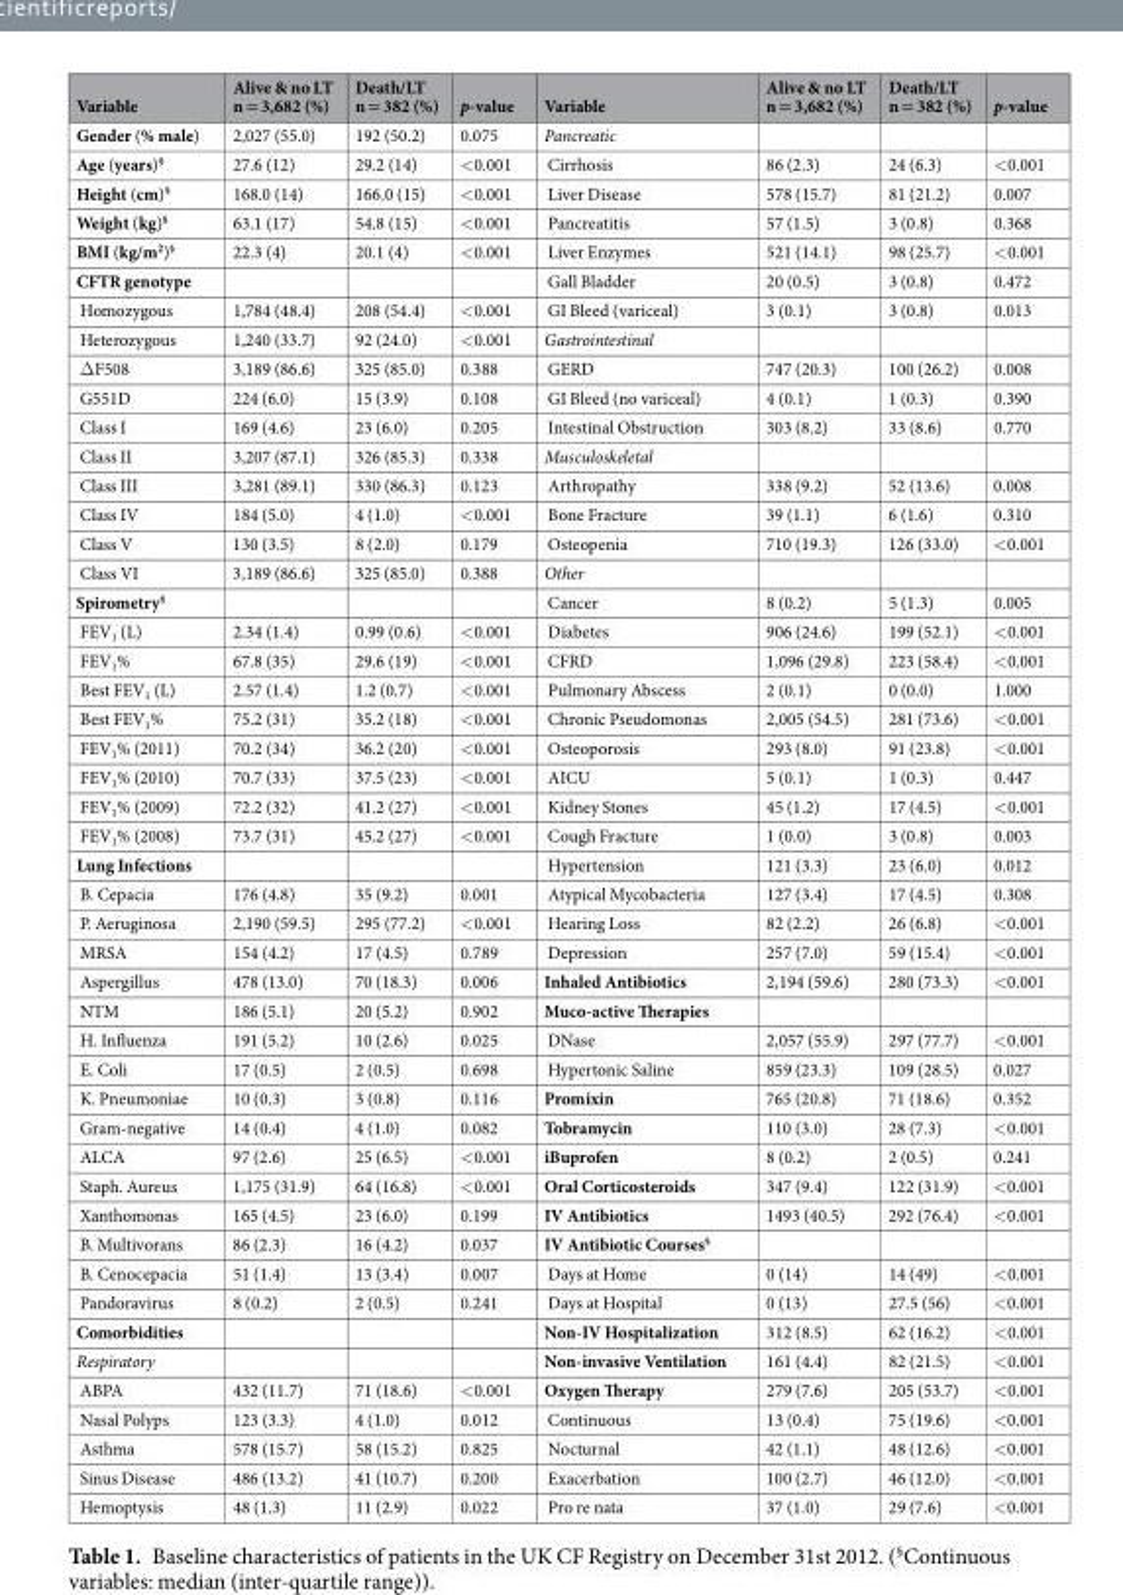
<table><thead><tr><td>Variable</td><td>Alive &amp; no LT n = 3,682 (%)</td><td>Death/LT n = 382 (%)</td><td>p-value</td><td>Variable</td><td>Alive &amp; no LT n = 3,682 (%)</td><td>Death/LT n = 382 (%)</td><td>p-value</td></tr></thead><tbody><tr><td>Gender (% male)</td><td>2,027 (55.0)</td><td>192 (50.2)</td><td>0.075</td><td>Pancreatic</td><td></td><td></td><td></td></tr><tr><td>Age (years)<sup>§</sup></td><td>27.6 (12)</td><td>29.2 (14)</td><td>&lt;0.001</td><td>Cirrhosis</td><td>86 (2.3)</td><td>24 (6.3)</td><td>&lt;0.001</td></tr><tr><td>Height (cm)<sup>§</sup></td><td>168.0 (14)</td><td>166.0 (15)</td><td>&lt;0.001</td><td>Liver Disease</td><td>578 (15.7)</td><td>81 (21.2)</td><td>0.007</td></tr><tr><td>Weight (kg)<sup>§</sup></td><td>63.1 (17)</td><td>54.8 (15)</td><td>&lt;0.001</td><td>Pancreatitis</td><td>57 (1.5)</td><td>3 (0.8)</td><td>0.368</td></tr><tr><td>BMI (kg/m<sup>2</sup>)<sup>§</sup></td><td>22.3 (4)</td><td>20.1 (4)</td><td>&lt;0.001</td><td>Liver Enzymes</td><td>521 (14.1)</td><td>98 (25.7)</td><td>&lt;0.001</td></tr><tr><td>CFTR genotype</td><td></td><td></td><td></td><td>Gall Bladder</td><td>20 (0.5)</td><td>3 (0.8)</td><td>0.472</td></tr><tr><td>Homozygous</td><td>1,784 (48.4)</td><td>208 (54.4)</td><td>&lt;0.001</td><td>GI Bleed (variceal)</td><td>3 (0.1)</td><td>3 (0.8)</td><td>0.013</td></tr><tr><td>Heterozygous</td><td>1,240 (33.7)</td><td>92 (24.0)</td><td>&lt;0.001</td><td>Gastrointestinal</td><td></td><td></td><td></td></tr><tr><td>ΔF508</td><td>3,189 (86.6)</td><td>325 (85.0)</td><td>0.388</td><td>GERD</td><td>747 (20.3)</td><td>100 (26.2)</td><td>0.008</td></tr><tr><td>G551D</td><td>224 (6.0)</td><td>15 (3.9)</td><td>0.108</td><td>GI Bleed (no variceal)</td><td>4 (0.1)</td><td>1 (0.3)</td><td>0.390</td></tr><tr><td>Class I</td><td>169 (4.6)</td><td>23 (6.0)</td><td>0.205</td><td>Intestinal Obstruction</td><td>303 (8.2)</td><td>33 (8.6)</td><td>0.770</td></tr><tr><td>Class II</td><td>3,207 (87.1)</td><td>326 (85.3)</td><td>0.338</td><td>Musculoskeletal</td><td></td><td></td><td></td></tr><tr><td>Class III</td><td>3,281 (89.1)</td><td>330 (86.3)</td><td>0.123</td><td>Arthropathy</td><td>338 (9.2)</td><td>52 (13.6)</td><td>0.008</td></tr><tr><td>Class IV</td><td>184 (5.0)</td><td>4 (1.0)</td><td>&lt;0.001</td><td>Bone Fracture</td><td>39 (1.1)</td><td>6 (1.6)</td><td>0.310</td></tr><tr><td>Class V</td><td>130 (3.5)</td><td>8 (2.0)</td><td>0.179</td><td>Osteopenia</td><td>710 (19.3)</td><td>126 (33.0)</td><td>&lt;0.001</td></tr><tr><td>Class VI</td><td>3,189 (86.6)</td><td>325 (85.0)</td><td>0.388</td><td>Other</td><td></td><td></td><td></td></tr><tr><td>Spirometry<sup>§</sup></td><td></td><td></td><td></td><td>Cancer</td><td>8 (0.2)</td><td>5 (1.3)</td><td>0.005</td></tr><tr><td>FEV<sub>1</sub> (L)</td><td>2.34 (1.4)</td><td>0.99 (0.6)</td><td>&lt;0.001</td><td>Diabetes</td><td>906 (24.6)</td><td>199 (52.1)</td><td>&lt;0.001</td></tr><tr><td>FEV<sub>1</sub>%</td><td>67.8 (35)</td><td>29.6 (19)</td><td>&lt;0.001</td><td>CFRD</td><td>1,096 (29.8)</td><td>223 (58.4)</td><td>&lt;0.001</td></tr><tr><td>Best FEV<sub>1</sub> (L)</td><td>2.57 (1.4)</td><td>1.2 (0.7)</td><td>&lt;0.001</td><td>Pulmonary Abscess</td><td>2 (0.1)</td><td>0 (0.0)</td><td>1.000</td></tr><tr><td>Best FEV<sub>1</sub>%</td><td>75.2 (31)</td><td>35.2 (18)</td><td>&lt;0.001</td><td>Chronic Pseudomonas</td><td>2,005 (54.5)</td><td>281 (73.6)</td><td>&lt;0.001</td></tr><tr><td>FEV<sub>1</sub>% (2011)</td><td>70.2 (34)</td><td>36.2 (20)</td><td>&lt;0.001</td><td>Osteoporosis</td><td>293 (8.0)</td><td>91 (23.8)</td><td>&lt;0.001</td></tr><tr><td>FEV<sub>1</sub>% (2010)</td><td>70.7 (33)</td><td>37.5 (23)</td><td>&lt;0.001</td><td>AICU</td><td>5 (0.1)</td><td>1 (0.3)</td><td>0.447</td></tr><tr><td>FEV<sub>1</sub>% (2009)</td><td>72.2 (32)</td><td>41.2 (27)</td><td>&lt;0.001</td><td>Kidney Stones</td><td>45 (1.2)</td><td>17 (4.5)</td><td>&lt;0.001</td></tr><tr><td>FEV<sub>1</sub>% (2008)</td><td>73.7 (31)</td><td>45.2 (27)</td><td>&lt;0.001</td><td>Cough Fracture</td><td>1 (0.0)</td><td>3 (0.8)</td><td>0.003</td></tr><tr><td>Lung Infections</td><td></td><td></td><td></td><td>Hypertension</td><td>121 (3.3)</td><td>23 (6.0)</td><td>0.012</td></tr><tr><td>B. Cepacia</td><td>176 (4.8)</td><td>35 (9.2)</td><td>0.001</td><td>Atypical Mycobacteria</td><td>127 (3.4)</td><td>17 (4.5)</td><td>0.308</td></tr><tr><td>P. Aeruginosa</td><td>2,190 (59.5)</td><td>295 (77.2)</td><td>&lt;0.001</td><td>Hearing Loss</td><td>82 (2.2)</td><td>26 (6.8)</td><td>&lt;0.001</td></tr><tr><td>MRSA</td><td>154 (4.2)</td><td>17 (4.5)</td><td>0.789</td><td>Depression</td><td>257 (7.0)</td><td>59 (15.4)</td><td>&lt;0.001</td></tr><tr><td>Aspergillus</td><td>478 (13.0)</td><td>70 (18.3)</td><td>0.006</td><td>Inhaled Antibiotics</td><td>2,194 (59.6)</td><td>280 (73.3)</td><td>&lt;0.001</td></tr><tr><td>NTM</td><td>186 (5.1)</td><td>20 (5.2)</td><td>0.902</td><td>Muco-active Therapies</td><td></td><td></td><td></td></tr><tr><td>H. Influenza</td><td>191 (5.2)</td><td>10 (2.6)</td><td>0.025</td><td>DNase</td><td>2,057 (55.9)</td><td>297 (77.7)</td><td>&lt;0.001</td></tr><tr><td>E. Coli</td><td>17 (0.5)</td><td>2 (0.5)</td><td>0.698</td><td>Hypertonic Saline</td><td>859 (23.3)</td><td>109 (28.5)</td><td>0.027</td></tr><tr><td>K. Pneumoniae</td><td>10 (0.3)</td><td>3 (0.8)</td><td>0.116</td><td>Promixin</td><td>765 (20.8)</td><td>71 (18.6)</td><td>0.352</td></tr><tr><td>Gram-negative</td><td>14 (0.4)</td><td>4 (1.0)</td><td>0.082</td><td>Tobramycin</td><td>110 (3.0)</td><td>28 (7.3)</td><td>&lt;0.001</td></tr><tr><td>ALCA</td><td>97 (2.6)</td><td>25 (6.5)</td><td>&lt;0.001</td><td>iBuprofen</td><td>8 (0.2)</td><td>2 (0.5)</td><td>0.241</td></tr><tr><td>Staph. Aureus</td><td>1,175 (31.9)</td><td>64 (16.8)</td><td>&lt;0.001</td><td>Oral Corticosteroids</td><td>347 (9.4)</td><td>122 (31.9)</td><td>&lt;0.001</td></tr><tr><td>Xanthomonas</td><td>165 (4.5)</td><td>23 (6.0)</td><td>0.199</td><td>IV Antibiotics</td><td>1493 (40.5)</td><td>292 (76.4)</td><td>&lt;0.001</td></tr><tr><td>B. Multivorans</td><td>86 (2.3)</td><td>16 (4.2)</td><td>0.037</td><td>IV Antibiotic Courses<sup>§</sup></td><td></td><td></td><td></td></tr><tr><td>B. Cenocepacia</td><td>51 (1.4)</td><td>13 (3.4)</td><td>0.007</td><td>Days at Home</td><td>0 (14)</td><td>14 (49)</td><td>&lt;0.001</td></tr><tr><td>Pandoravirus</td><td>8 (0.2)</td><td>2 (0.5)</td><td>0.241</td><td>Days at Hospital</td><td>0 (13)</td><td>27.5 (56)</td><td>&lt;0.001</td></tr><tr><td>Comorbidities</td><td></td><td></td><td></td><td>Non-IV Hospitalization</td><td>312 (8.5)</td><td>62 (16.2)</td><td>&lt;0.001</td></tr><tr><td>Respiratory</td><td></td><td></td><td></td><td>Non-invasive Ventilation</td><td>161 (4.4)</td><td>82 (21.5)</td><td>&lt;0.001</td></tr><tr><td>ABPA</td><td>432 (11.7)</td><td>71 (18.6)</td><td>&lt;0.001</td><td>Oxygen Therapy</td><td>279 (7.6)</td><td>205 (53.7)</td><td>&lt;0.001</td></tr><tr><td>Nasal Polyps</td><td>123 (3.3)</td><td>4 (1.0)</td><td>0.012</td><td>Continuous</td><td>13 (0.4)</td><td>75 (19.6)</td><td>&lt;0.001</td></tr><tr><td>Asthma</td><td>578 (15.7)</td><td>58 (15.2)</td><td>0.825</td><td>Nocturnal</td><td>42 (1.1)</td><td>48 (12.6)</td><td>&lt;0.001</td></tr><tr><td>Sinus Disease</td><td>486 (13.2)</td><td>41 (10.7)</td><td>0.200</td><td>Exacerbation</td><td>100 (2.7)</td><td>46 (12.0)</td><td>&lt;0.001</td></tr><tr><td>Hemoptysis</td><td>48 (1.3)</td><td>11 (2.9)</td><td>0.022</td><td>Pro re nata</td><td>37 (1.0)</td><td>29 (7.6)</td><td>&lt;0.001</td></tr></tbody></table>